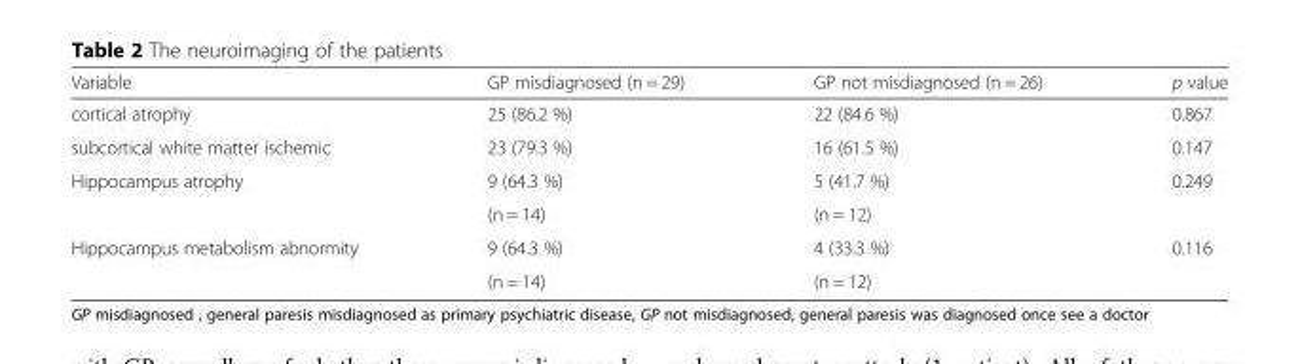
<table><thead><tr><td>Variable</td><td>GP misdiagnosed (n = 29)</td><td>GP not misdiagnosed (n = 26)</td><td>p value</td></tr></thead><tbody><tr><td>cortical atrophy</td><td>25 (86.2 %)</td><td>22 (84.6 %)</td><td>0.867</td></tr><tr><td>subcortical white matter ischemic</td><td>23 (79.3 %)</td><td>16 (61.5 %)</td><td>0.147</td></tr><tr><td rowspan="2">Hippocampus atrophy</td><td>9 (64.3 %)</td><td>5 (41.7 %)</td><td>0.249</td></tr><tr><td>(n = 14)</td><td>(n = 12)</td><td></td></tr><tr><td rowspan="2">Hippocampus metabolism abnormity</td><td>9 (64.3 %)</td><td>4 (33.3 %)</td><td>0.116</td></tr><tr><td>(n = 14)</td><td>(n = 12)</td><td></td></tr></tbody></table>